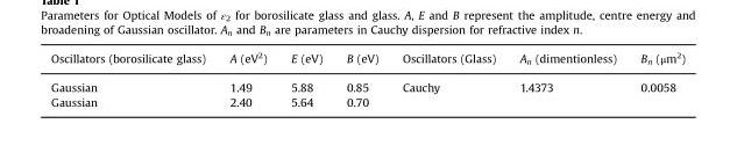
<table><thead><tr><td>Oscillators (borosilicate glass)</td><td>A (eV<sup>2</sup>)</td><td>E (eV)</td><td>B (eV)</td><td>Oscillators (Glass)</td><td>A<sub>n</sub> (dimentionless)</td><td>B<sub>n</sub> (μm<sup>2</sup>)</td></tr></thead><tbody><tr><td>Gaussian</td><td>1.49</td><td>5.88</td><td>0.85</td><td>Cauchy</td><td>1.4373</td><td>0.0058</td></tr><tr><td>Gaussian</td><td>2.40</td><td>5.64</td><td>0.70</td><td></td><td></td><td></td></tr></tbody></table>